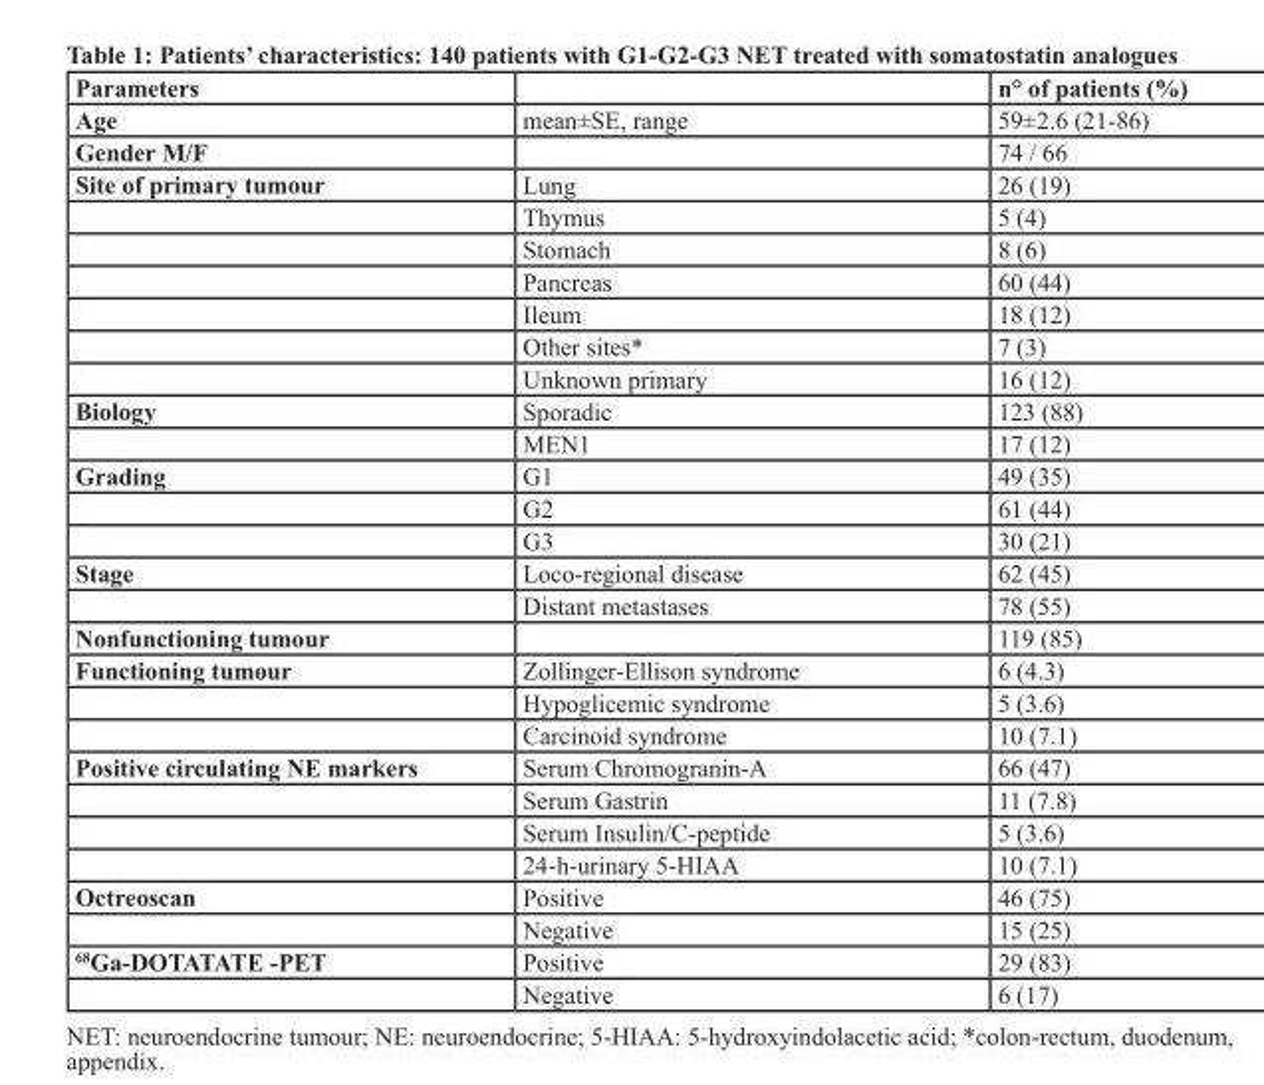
<table><thead><tr><td>Parameters</td><td></td><td>n° of patients (%)</td></tr></thead><tbody><tr><td>Age</td><td>mean±SE, range</td><td>59±2.6 (21-86)</td></tr><tr><td>Gender M/F</td><td></td><td>74 / 66</td></tr><tr><td rowspan="7">Site of primary tumour</td><td>Lung</td><td>26 (19)</td></tr><tr><td>Thymus</td><td>5 (4)</td></tr><tr><td>Stomach</td><td>8 (6)</td></tr><tr><td>Pancreas</td><td>60 (44)</td></tr><tr><td>Ileum</td><td>18 (12)</td></tr><tr><td>Other sites*</td><td>7 (3)</td></tr><tr><td>Unknown primary</td><td>16 (12)</td></tr><tr><td rowspan="2">Biology</td><td>Sporadic</td><td>123 (88)</td></tr><tr><td>MEN1</td><td>17 (12)</td></tr><tr><td rowspan="3">Grading</td><td>G1</td><td>49 (35)</td></tr><tr><td>G2</td><td>61 (44)</td></tr><tr><td>G3</td><td>30 (21)</td></tr><tr><td rowspan="2">Stage</td><td>Loco-regional disease</td><td>62 (45)</td></tr><tr><td>Distant metastases</td><td>78 (55)</td></tr><tr><td>Nonfunctioning tumour</td><td></td><td>119 (85)</td></tr><tr><td rowspan="3">Functioning tumour</td><td>Zollinger-Ellison syndrome</td><td>6 (4.3)</td></tr><tr><td>Hypoglicemic syndrome</td><td>5 (3.6)</td></tr><tr><td>Carcinoid syndrome</td><td>10 (7.1)</td></tr><tr><td rowspan="4">Positive circulating NE markers</td><td>Serum Chromogranin-A</td><td>66 (47)</td></tr><tr><td>Serum Gastrin</td><td>11 (7.8)</td></tr><tr><td>Serum Insulin/C-peptide</td><td>5 (3.6)</td></tr><tr><td>24-h-urinary 5-HIAA</td><td>10 (7.1)</td></tr><tr><td rowspan="2">Octreoscan</td><td>Positive</td><td>46 (75)</td></tr><tr><td>Negative</td><td>15 (25)</td></tr><tr><td rowspan="2"><sup>68</sup>Ga-DOTATATE -PET</td><td>Positive</td><td>29 (83)</td></tr><tr><td>Negative</td><td>6 (17)</td></tr></tbody></table>